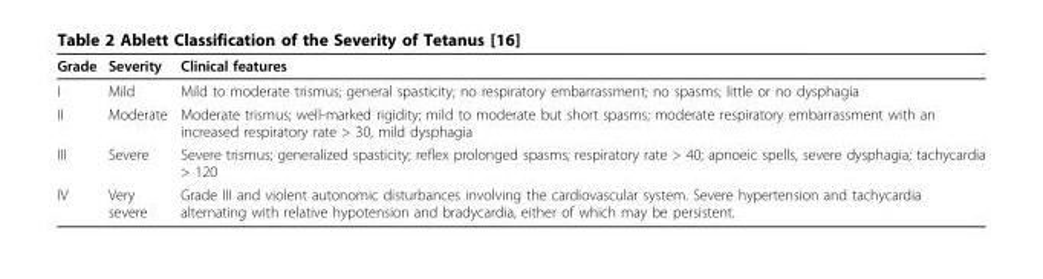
<table><thead><tr><td>Grade</td><td>Severity</td><td>Clinical features</td></tr></thead><tbody><tr><td>I</td><td>Mild</td><td>Mild to moderate trismus; general spasticity; no respiratory embarrassment; no spasms; little or no dysphagia</td></tr><tr><td>II</td><td>Moderate</td><td>Moderate trismus; well-marked rigidity; mild to moderate but short spasms; moderate respiratory embarrassment with an increased respiratory rate &gt; 30, mild dysphagia</td></tr><tr><td>III</td><td>Severe</td><td>Severe trismus; generalized spasticity; reflex prolonged spasms; respiratory rate &gt; 40; apnoeic spells, severe dysphagia; tachycardia &gt; 120</td></tr><tr><td>IV</td><td>Very severe</td><td>Grade III and violent autonomic disturbances involving the cardiovascular system. Severe hypertension and tachycardia alternating with relative hypotension and bradycardia, either of which may be persistent.</td></tr></tbody></table>